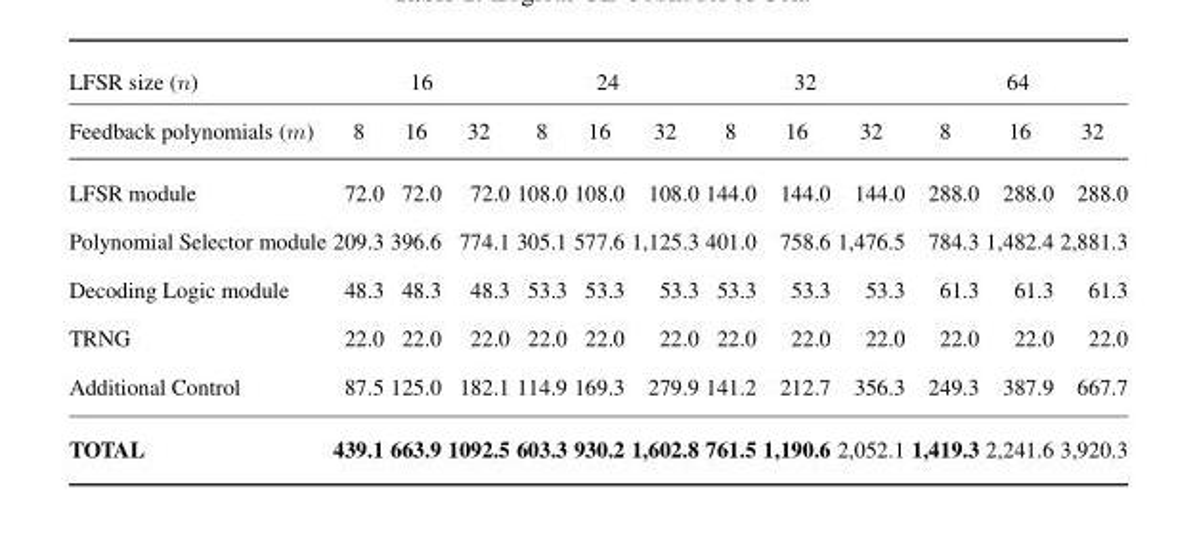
<table><thead><tr><td rowspan="2">LFSR size (n) Feedback polynomials (m)</td><td colspan="3">16</td><td colspan="3">24</td><td colspan="3">32</td><td colspan="3">64</td></tr><tr><td>8</td><td>16</td><td>32</td><td>8</td><td>16</td><td>32</td><td>8</td><td>16</td><td>32</td><td>8</td><td>16</td><td>32</td></tr></thead><tbody><tr><td>LFSR module</td><td>72.0</td><td>72.0</td><td>72.0</td><td>108.0</td><td>108.0</td><td>108.0</td><td>144.0</td><td>144.0</td><td>144.0</td><td>288.0</td><td>288.0</td><td>288.0</td></tr><tr><td>Polynomial Selector module</td><td>209.3</td><td>396.6</td><td>774.1</td><td>305.1</td><td>577.6</td><td>1,125.3</td><td>401.0</td><td>758.6</td><td>1,476.5</td><td>784.3</td><td>1,482.4</td><td>2,881.3</td></tr><tr><td>Decoding Logic module</td><td>48.3</td><td>48.3</td><td>48.3</td><td>53.3</td><td>53.3</td><td>53.3</td><td>53.3</td><td>53.3</td><td>53.3</td><td>61.3</td><td>61.3</td><td>61.3</td></tr><tr><td>TRNG</td><td>22.0</td><td>22.0</td><td>22.0</td><td>22.0</td><td>22.0</td><td>22.0</td><td>22.0</td><td>22.0</td><td>22.0</td><td>22.0</td><td>22.0</td><td>22.0</td></tr><tr><td>Additional Control</td><td>87.5</td><td>125.0</td><td>182.1</td><td>114.9</td><td>169.3</td><td>279.9</td><td>141.2</td><td>212.7</td><td>356.3</td><td>249.3</td><td>387.9</td><td>667.7</td></tr><tr><td>TOTAL</td><td>439.1</td><td>663.9</td><td>1092.5</td><td>603.3</td><td>930.2</td><td>1,602.8</td><td>761.5</td><td>1,190.6</td><td>2,052.1</td><td>1,419.3</td><td>2,241.6</td><td>3,920.3</td></tr></tbody></table>